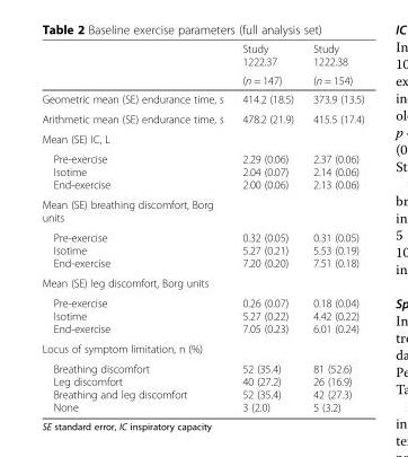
<table><thead><tr><td rowspan="2"></td><td rowspan="2">Study 1222.37 (n = 147)</td><td rowspan="2">Study 1222.38 (n = 154)</td></tr><tr></tr></thead><tbody><tr><td>Geometric mean (SE) endurance time, s</td><td>414.2 (18.5)</td><td>373.9 (13.5)</td></tr><tr><td>Arithmetic mean (SE) endurance time, s</td><td>478.2 (21.9)</td><td>415.5 (17.4)</td></tr><tr><td colspan="3">Mean (SE) IC, L</td></tr><tr><td>Pre-exercise Isotime End-exercise</td><td>2.29 (0.06) 2.04 (0.07) 2.00 (0.06)</td><td>2.37 (0.06) 2.14 (0.06) 2.13 (0.06)</td></tr><tr><td colspan="3">Mean (SE) breathing discomfort, Borg units</td></tr><tr><td>Pre-exercise Isotime End-exercise</td><td>0.32 (0.05) 5.27 (0.21) 7.20 (0.20)</td><td>0.31 (0.05) 5.53 (0.19) 7.51 (0.18)</td></tr><tr><td colspan="3">Mean (SE) leg discomfort, Borg units</td></tr><tr><td>Pre-exercise Isotime End-exercise</td><td>0.26 (0.07) 5.27 (0.22) 7.05 (0.23)</td><td>0.18 (0.04) 4.42 (0.22) 6.01 (0.24)</td></tr><tr><td colspan="3">Locus of symptom limitation, n (%)</td></tr><tr><td>Breathing discomfort Leg discomfort Breathing and leg discomfort None</td><td>52 (35.4) 40 (27.2) 52 (35.4) 3 (2.0)</td><td>81 (52.6) 26 (16.9) 42 (27.3) 5 (3.2)</td></tr></tbody></table>